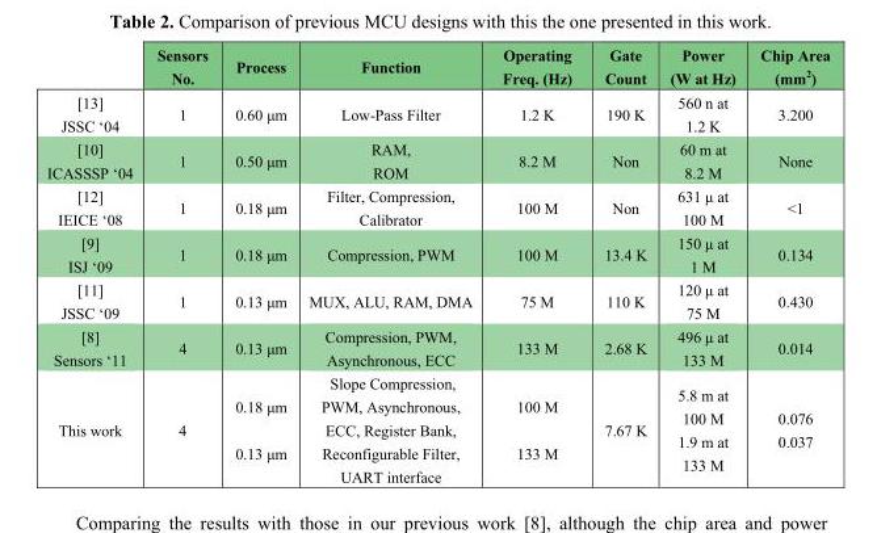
<table><thead><tr><td></td><td>Sensors No.</td><td>Process</td><td>Function</td><td>Operating Freq. (Hz)</td><td>Gate Count</td><td>Power (W at Hz)</td><td>Chip Area (mm<sup>2</sup>)</td></tr></thead><tbody><tr><td>[13] JSSC ‘04</td><td>1</td><td>0.60 μm</td><td>Low-Pass Filter</td><td>1.2 K</td><td>190 K</td><td>560 n at 1.2 K</td><td>3.200</td></tr><tr><td>[10] ICASSSP ‘04</td><td>1</td><td>0.50 μm</td><td>RAM, ROM</td><td>8.2 M</td><td>Non</td><td>60 m at 8.2 M</td><td>None</td></tr><tr><td>[12] IEICE ‘08</td><td>1</td><td>0.18 μm</td><td>Filter, Compression, Calibrator</td><td>100 M</td><td>Non</td><td>631 μ at 100 M</td><td>&lt;1</td></tr><tr><td>[9] ISJ ‘09</td><td>1</td><td>0.18 μm</td><td>Compression, PWM</td><td>100 M</td><td>13.4 K</td><td>150 μ at 1 M</td><td>0.134</td></tr><tr><td>[11] JSSC ‘09</td><td>1</td><td>0.13 μm</td><td>MUX, ALU, RAM, DMA</td><td>75 M</td><td>110 K</td><td>120 μ at 75 M</td><td>0.430</td></tr><tr><td>[8] Sensors ‘11</td><td>4</td><td>0.13 μm</td><td>Compression, PWM, Asynchronous, ECC</td><td>133 M</td><td>2.68 K</td><td>496 μ at 133 M</td><td>0.014</td></tr><tr><td>This work</td><td>4</td><td>0.18 μm 0.13 μm</td><td>Slope Compression, PWM, Asynchronous, ECC, Register Bank, Reconfigurable Filter, UART interface</td><td>100 M 133 M</td><td>7.67 K</td><td>5.8 m at 100 M 1.9 m at 133 M</td><td>0.076 0.037</td></tr></tbody></table>